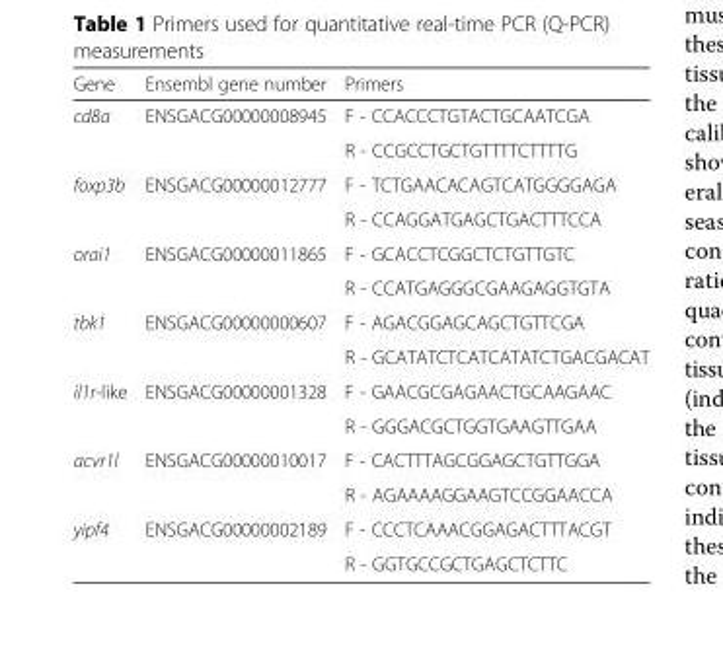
<table><thead><tr><td>Gene</td><td>Ensembl gene number</td><td>Primers</td></tr></thead><tbody><tr><td rowspan="2">cd8a</td><td rowspan="2">ENSGACG00000008945</td><td>F - CCACCCTGTACTGCAATCGA</td></tr><tr><td>R - CCGCCTGCTGTTTTCTTTTG</td></tr><tr><td rowspan="2">foxp3b</td><td rowspan="2">ENSGACG00000012777</td><td>F - TCTGAACACAGTCATGGGGAGA</td></tr><tr><td>R - CCAGGATGAGCTGACTTTCCA</td></tr><tr><td rowspan="2">orai1</td><td rowspan="2">ENSGACG00000011865</td><td>F - GCACCTCGGCTCTGTTGTC</td></tr><tr><td>R - CCATGAGGGCGAAGAGGTGTA</td></tr><tr><td rowspan="2">tbk1</td><td rowspan="2">ENSGACG00000000607</td><td>F - AGACGGAGCAGCTGTTCGA</td></tr><tr><td>R - GCATATCTCATCATATCTGACGACAT</td></tr><tr><td rowspan="2">il1r-like</td><td rowspan="2">ENSGACG00000001328</td><td>F - GAACGCGAGAACTGCAAGAAC</td></tr><tr><td>R - GGGACGCTGGTGAAGTTGAA</td></tr><tr><td rowspan="2">acvr1l</td><td rowspan="2">ENSGACG00000010017</td><td>F - CACTTTAGCGGAGCTGTTGGA</td></tr><tr><td>R - AGAAAAGGAAGTCCGGAACCA</td></tr><tr><td rowspan="2">yipf4</td><td rowspan="2">ENSGACG00000002189</td><td>F - CCCTCAAACGGAGACTTTACGT</td></tr><tr><td>R - GGTGCCGCTGAGCTCTTC</td></tr></tbody></table>